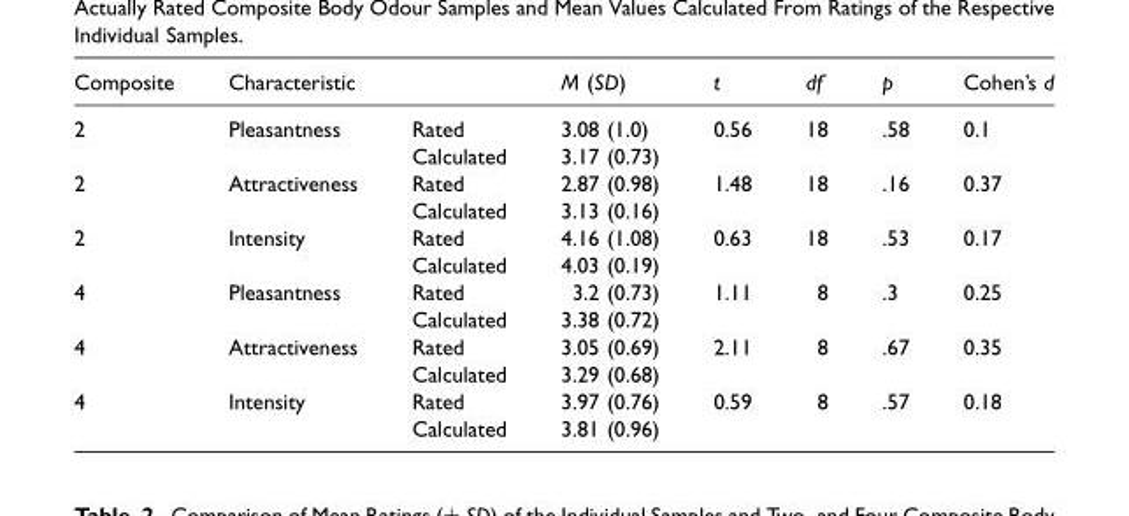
<table><thead><tr><td>Composite</td><td>Characteristic</td><td></td><td>M (SD)</td><td>t</td><td>df</td><td>p</td><td>Cohen’s d</td></tr></thead><tbody><tr><td rowspan="2">2</td><td rowspan="2">Pleasantness</td><td>Rated</td><td>3.08 (1.0)</td><td rowspan="2">0.56</td><td rowspan="2">18</td><td rowspan="2">.58</td><td rowspan="2">0.1</td></tr><tr><td>Calculated</td><td>3.17 (0.73)</td></tr><tr><td rowspan="2">2</td><td rowspan="2">Attractiveness</td><td>Rated</td><td>2.87 (0.98)</td><td rowspan="2">1.48</td><td rowspan="2">18</td><td rowspan="2">.16</td><td rowspan="2">0.37</td></tr><tr><td>Calculated</td><td>3.13 (0.16)</td></tr><tr><td rowspan="2">2</td><td rowspan="2">Intensity</td><td>Rated</td><td>4.16 (1.08)</td><td rowspan="2">0.63</td><td rowspan="2">18</td><td rowspan="2">.53</td><td rowspan="2">0.17</td></tr><tr><td>Calculated</td><td>4.03 (0.19)</td></tr><tr><td rowspan="2">4</td><td rowspan="2">Pleasantness</td><td>Rated</td><td>3.2 (0.73)</td><td rowspan="2">1.11</td><td rowspan="2">8</td><td rowspan="2">.3</td><td rowspan="2">0.25</td></tr><tr><td>Calculated</td><td>3.38 (0.72)</td></tr><tr><td rowspan="2">4</td><td rowspan="2">Attractiveness</td><td>Rated</td><td>3.05 (0.69)</td><td rowspan="2">2.11</td><td rowspan="2">8</td><td rowspan="2">.67</td><td rowspan="2">0.35</td></tr><tr><td>Calculated</td><td>3.29 (0.68)</td></tr><tr><td rowspan="2">4</td><td rowspan="2">Intensity</td><td>Rated</td><td>3.97 (0.76)</td><td rowspan="2">0.59</td><td rowspan="2">8</td><td rowspan="2">.57</td><td rowspan="2">0.18</td></tr><tr><td>Calculated</td><td>3.81 (0.96)</td></tr></tbody></table>